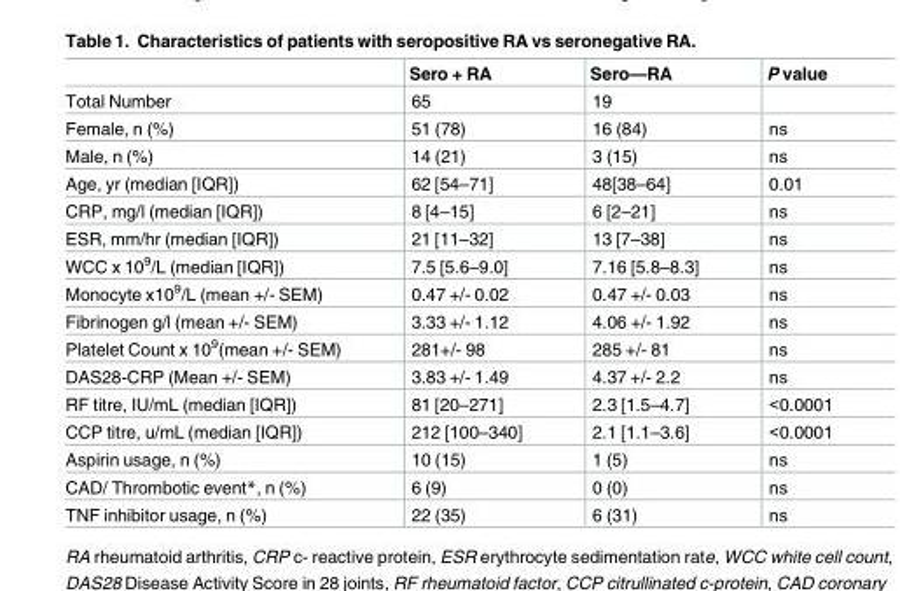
<table><thead><tr><td></td><td>Sero + RA</td><td>Sero—RA</td><td>P value</td></tr></thead><tbody><tr><td>Total Number</td><td>65</td><td>19</td><td></td></tr><tr><td>Female, n (%)</td><td>51 (78)</td><td>16 (84)</td><td>ns</td></tr><tr><td>Male, n (%)</td><td>14 (21)</td><td>3 (15)</td><td>ns</td></tr><tr><td>Age, yr (median [IQR])</td><td>62 [54–71]</td><td>48[38–64]</td><td>0.01</td></tr><tr><td>CRP, mg/l (median [IQR])</td><td>8 [4–15]</td><td>6 [2–21]</td><td>ns</td></tr><tr><td>ESR, mm/hr (median [IQR])</td><td>21 [11–32]</td><td>13 [7–38]</td><td>ns</td></tr><tr><td>WCC x 10<sup>9</sup>/L (median [IQR])</td><td>7.5 [5.6–9.0]</td><td>7.16 [5.8–8.3]</td><td>ns</td></tr><tr><td>Monocyte x10<sup>9</sup>/L (mean +/- SEM)</td><td>0.47 +/- 0.02</td><td>0.47 +/- 0.03</td><td>ns</td></tr><tr><td>Fibrinogen g/l (mean +/- SEM)</td><td>3.33 +/- 1.12</td><td>4.06 +/- 1.92</td><td>ns</td></tr><tr><td>Platelet Count x 10<sup>9</sup>(mean +/- SEM)</td><td>281+/- 98</td><td>285 +/- 81</td><td>ns</td></tr><tr><td>DAS28-CRP (Mean +/- SEM)</td><td>3.83 +/- 1.49</td><td>4.37 +/- 2.2</td><td>ns</td></tr><tr><td>RF titre, IU/mL (median [IQR])</td><td>81 [20–271]</td><td>2.3 [1.5–4.7]</td><td>&lt;0.0001</td></tr><tr><td>CCP titre, u/mL (median [IQR])</td><td>212 [100–340]</td><td>2.1 [1.1–3.6]</td><td>&lt;0.0001</td></tr><tr><td>Aspirin usage, n (%)</td><td>10 (15)</td><td>1 (5)</td><td>ns</td></tr><tr><td>CAD/ Thrombotic event*, n (%)</td><td>6 (9)</td><td>0 (0)</td><td>ns</td></tr><tr><td>TNF inhibitor usage, n (%)</td><td>22 (35)</td><td>6 (31)</td><td>ns</td></tr></tbody></table>